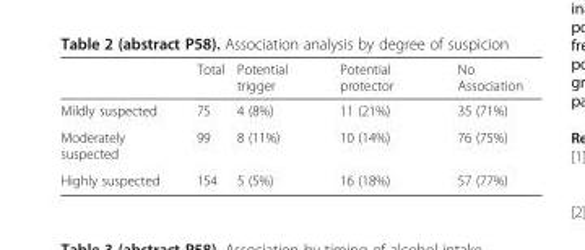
<table><thead><tr><td></td><td>Total</td><td>Potential trigger</td><td>Potential protector</td><td>No Association</td></tr></thead><tbody><tr><td>Mildly suspected</td><td>75</td><td>4 (8%)</td><td>11 (21%)</td><td>35 (71%)</td></tr><tr><td>Moderately suspected</td><td>99</td><td>8 (11%)</td><td>10 (14%)</td><td>76 (75%)</td></tr><tr><td>Highly suspected</td><td>154</td><td>5 (5%)</td><td>16 (18%)</td><td>57 (77%)</td></tr></tbody></table>